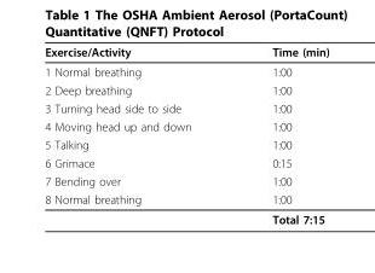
<table><thead><tr><td>Exercise/Activity</td><td>Time (min)</td></tr></thead><tbody><tr><td>1 Normal breathing</td><td>1:00</td></tr><tr><td>2 Deep breathing</td><td>1:00</td></tr><tr><td>3 Turning head side to side</td><td>1:00</td></tr><tr><td>4 Moving head up and down</td><td>1:00</td></tr><tr><td>5 Talking</td><td>1:00</td></tr><tr><td>6 Grimace</td><td>0:15</td></tr><tr><td>7 Bending over</td><td>1:00</td></tr><tr><td rowspan="2">8 Normal breathing</td><td>1:00</td></tr><tr><td>Total 7:15</td></tr></tbody></table>